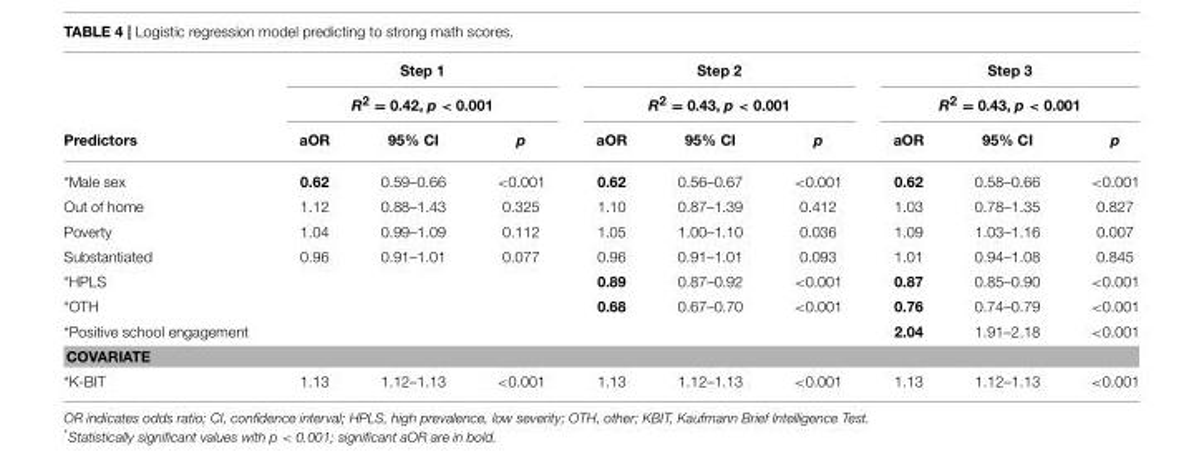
<table><thead><tr><td rowspan="3">Predictors</td><td rowspan="2" colspan="3">Step 1 R<sup>2</sup> = 0.42, p &lt; 0.001</td><td rowspan="2" colspan="3">Step 2 R<sup>2</sup> = 0.43, p &lt; 0.001</td><td rowspan="2" colspan="3">Step 3 R<sup>2</sup> = 0.43, p &lt; 0.001</td></tr><tr></tr><tr><td>aOR</td><td>95% CI</td><td>p</td><td>aOR</td><td>95% CI</td><td>p</td><td>aOR</td><td>95% CI</td><td>p</td></tr></thead><tbody><tr><td>*Male sex</td><td>0.62</td><td>0.59–0.66</td><td>&lt;0.001</td><td>0.62</td><td>0.56–0.67</td><td>&lt;0.001</td><td>0.62</td><td>0.58–0.66</td><td>&lt;0.001</td></tr><tr><td>Out of home</td><td>1.12</td><td>0.88–1.43</td><td>0.325</td><td>1.10</td><td>0.87–1.39</td><td>0.412</td><td>1.03</td><td>0.78–1.35</td><td>0.827</td></tr><tr><td>Poverty</td><td>1.04</td><td>0.99–1.09</td><td>0.112</td><td>1.05</td><td>1.00–1.10</td><td>0.036</td><td>1.09</td><td>1.03–1.16</td><td>0.007</td></tr><tr><td>Substantiated</td><td>0.96</td><td>0.91–1.01</td><td>0.077</td><td>0.96</td><td>0.91–1.01</td><td>0.093</td><td>1.01</td><td>0.94–1.08</td><td>0.845</td></tr><tr><td>*HPLS</td><td></td><td></td><td></td><td>0.89</td><td>0.87–0.92</td><td>&lt;0.001</td><td>0.87</td><td>0.85–0.90</td><td>&lt;0.001</td></tr><tr><td>*OTH</td><td></td><td></td><td></td><td>0.68</td><td>0.67–0.70</td><td>&lt;0.001</td><td>0.76</td><td>0.74–0.79</td><td>&lt;0.001</td></tr><tr><td>*Positive school engagement</td><td></td><td></td><td></td><td></td><td></td><td></td><td>2.04</td><td>1.91–2.18</td><td>&lt;0.001</td></tr><tr><td colspan="10">COVARIATE</td></tr><tr><td>*K-BIT</td><td>1.13</td><td>1.12–1.13</td><td>&lt;0.001</td><td>1.13</td><td>1.12–1.13</td><td>&lt;0.001</td><td>1.13</td><td>1.12–1.13</td><td>&lt;0.001</td></tr></tbody></table>